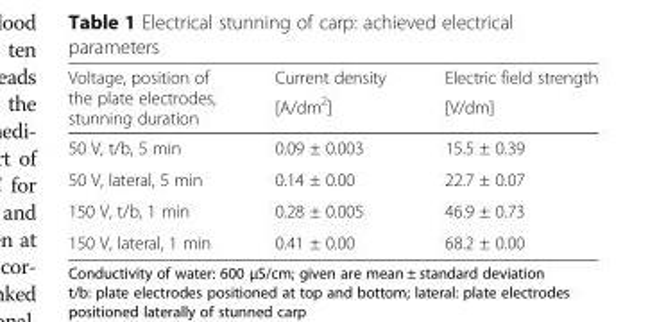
<table><thead><tr><td rowspan="2">Voltage, position of the plate electrodes, stunning duration</td><td rowspan="2">Current density [A/dm<sup>2</sup>]</td><td rowspan="2">Electric field strength [V/dm]</td></tr><tr></tr></thead><tbody><tr><td>50 V, t/b, 5 min</td><td>0.09 ± 0.003</td><td>15.5 ± 0.39</td></tr><tr><td>50 V, lateral, 5 min</td><td>0.14 ± 0.00</td><td>22.7 ± 0.07</td></tr><tr><td>150 V, t/b, 1 min</td><td>0.28 ± 0.005</td><td>46.9 ± 0.73</td></tr><tr><td>150 V, lateral, 1 min</td><td>0.41 ± 0.00</td><td>68.2 ± 0.00</td></tr></tbody></table>